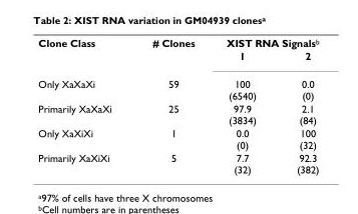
<table><tbody><tr><td rowspan="2">Clone Class</td><td># Clones</td><td colspan="2">XIST RNA Signals<sup>b</sup></td></tr><tr><td></td><td>1</td><td>2</td></tr><tr><td>Only XaXaXi</td><td>59</td><td>100 (6540)</td><td>0.0 (0)</td></tr><tr><td>Primarily XaXaXi</td><td>25</td><td>97.9 (3834)</td><td>2.1 (84)</td></tr><tr><td>Only XaXiXi</td><td>1</td><td>0.0 (0)</td><td>100 (32)</td></tr><tr><td>Primarily XaXiXi</td><td>5</td><td>7.7 (32)</td><td>92.3 (382)</td></tr></tbody></table>